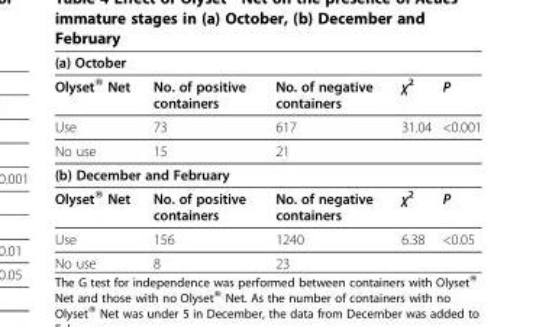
<table><thead><tr><td colspan="5">(a) October</td></tr><tr><td>Olyset® Net</td><td>No. of positive containers</td><td>No. of negative containers</td><td>χ<sup>2</sup></td><td>P</td></tr></thead><tbody><tr><td>Use</td><td>73</td><td>617</td><td>31.04</td><td>&lt;0.001</td></tr><tr><td>No use</td><td>15</td><td>21</td><td></td><td></td></tr><tr><td colspan="5">(b) December and February</td></tr><tr><td>Olyset® Net</td><td>No. of positive containers</td><td>No. of negative containers</td><td>χ<sup>2</sup></td><td>P</td></tr><tr><td>Use</td><td>156</td><td>1240</td><td>6.38</td><td>&lt;0.05</td></tr><tr><td>No use</td><td>8</td><td>23</td><td></td><td></td></tr></tbody></table>